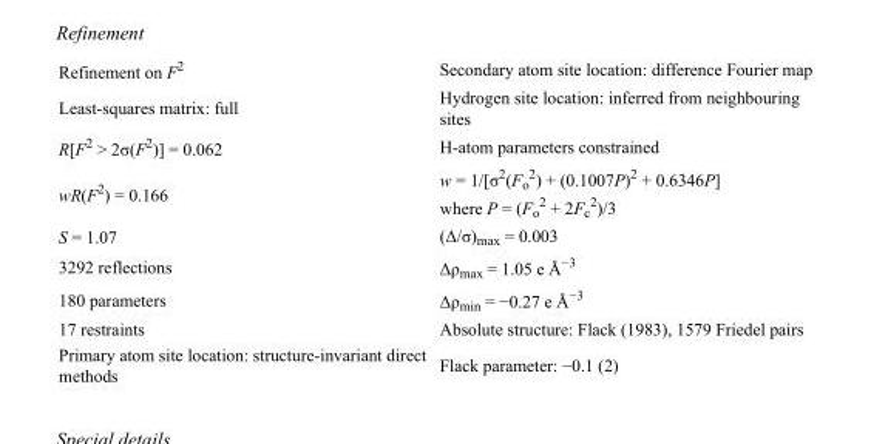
<table><tbody><tr><td>Refinement on F<sup>2</sup></td><td>Secondary atom site location: difference Fourier map</td></tr><tr><td>Least-squares matrix: full</td><td>Hydrogen site location: inferred from neighbouring sites</td></tr><tr><td>R[F<sup>2</sup> &gt; 2σ(F<sup>2</sup>)] = 0.062</td><td>H-atom parameters constrained</td></tr><tr><td>wR(F<sup>2</sup>) = 0.166</td><td>w = 1/[σ<sup>2</sup>(F<sub>o</sub> <sup>2</sup>) + (0.1007P)<sup>2</sup> + 0.6346P] where P = (F<sub>o</sub> <sup>2</sup> + 2F<sub>c</sub> <sup>2</sup>)/3</td></tr><tr><td>S = 1.07</td><td>(Δ/σ)<sub>max</sub> = 0.003</td></tr><tr><td>3292 reflections</td><td>Δρ<sub>max</sub> = 1.05 e Å<sup>−3</sup></td></tr><tr><td>180 parameters</td><td>Δρ<sub>min</sub> = −0.27 e Å<sup>−3</sup></td></tr><tr><td>17 restraints</td><td>Absolute structure: Flack (1983), 1579 Friedel pairs</td></tr><tr><td>Primary atom site location: structure-invariant direct methods</td><td>Flack parameter: −0.1 (2)</td></tr></tbody></table>